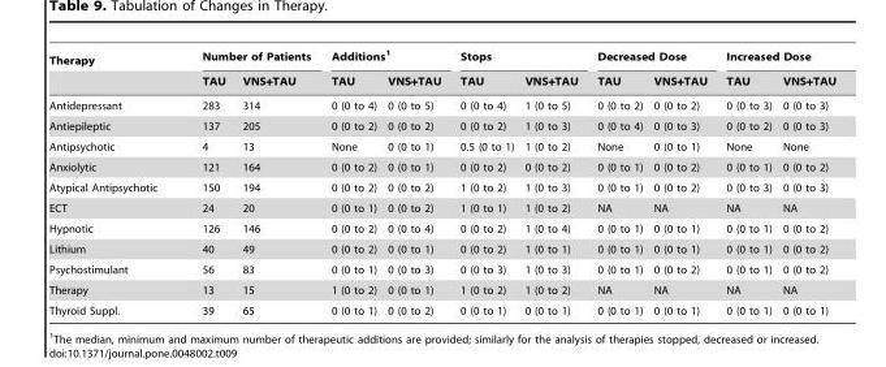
<table><thead><tr><td rowspan="2">Therapy</td><td colspan="2">Number of Patients</td><td colspan="2">Additions<sup>1</sup></td><td colspan="2">Stops</td><td colspan="2">Decreased Dose</td><td colspan="2">Increased Dose</td></tr><tr><td>TAU</td><td>VNS+TAU</td><td>TAU</td><td>VNS+TAU</td><td>TAU</td><td>VNS+TAU</td><td>TAU</td><td>VNS+TAU</td><td>TAU</td><td>VNS+TAU</td></tr></thead><tbody><tr><td>Antidepressant</td><td>283</td><td>314</td><td>0 (0 to 4)</td><td>0 (0 to 5)</td><td>0 (0 to 4)</td><td>1 (0 to 5)</td><td>0 (0 to 2)</td><td>0 (0 to 2)</td><td>0 (0 to 3)</td><td>0 (0 to 3)</td></tr><tr><td>Antiepileptic</td><td>137</td><td>205</td><td>0 (0 to 2)</td><td>0 (0 to 2)</td><td>0 (0 to 2)</td><td>1 (0 to 3)</td><td>0 (0 to 4)</td><td>0 (0 to 3)</td><td>0 (0 to 2)</td><td>0 (0 to 3)</td></tr><tr><td>Antipsychotic</td><td>4</td><td>13</td><td>None</td><td>0 (0 to 1)</td><td>0.5 (0 to 1)</td><td>1 (0 to 2)</td><td>None</td><td>0 (0 to 1)</td><td>None</td><td>None</td></tr><tr><td>Anxiolytic</td><td>121</td><td>164</td><td>0 (0 to 2)</td><td>0 (0 to 1)</td><td>0 (0 to 2)</td><td>0 (0 to 2)</td><td>0 (0 to 1)</td><td>0 (0 to 2)</td><td>0 (0 to 1)</td><td>0 (0 to 2)</td></tr><tr><td>Atypical Antipsychotic</td><td>150</td><td>194</td><td>0 (0 to 2)</td><td>0 (0 to 2)</td><td>1 (0 to 2)</td><td>1 (0 to 3)</td><td>0 (0 to 1)</td><td>0 (0 to 2)</td><td>0 (0 to 3)</td><td>0 (0 to 3)</td></tr><tr><td>ECT</td><td>24</td><td>20</td><td>0 (0 to 1)</td><td>0 (0 to 2)</td><td>1 (0 to 1)</td><td>1 (0 to 2)</td><td>NA</td><td>NA</td><td>NA</td><td>NA</td></tr><tr><td>Hypnotic</td><td>126</td><td>146</td><td>0 (0 to 2)</td><td>0 (0 to 4)</td><td>0 (0 to 2)</td><td>1 (0 to 4)</td><td>0 (0 to 1)</td><td>0 (0 to 1)</td><td>0 (0 to 1)</td><td>0 (0 to 2)</td></tr><tr><td>Lithium</td><td>40</td><td>49</td><td>0 (0 to 2)</td><td>0 (0 to 1)</td><td>0 (0 to 2)</td><td>1 (0 to 1)</td><td>0 (0 to 1)</td><td>0 (0 to 1)</td><td>0 (0 to 1)</td><td>0 (0 to 2)</td></tr><tr><td>Psychostimulant</td><td>56</td><td>83</td><td>0 (0 to 1)</td><td>0 (0 to 3)</td><td>0 (0 to 3)</td><td>1 (0 to 3)</td><td>0 (0 to 1)</td><td>0 (0 to 2)</td><td>0 (0 to 1)</td><td>0 (0 to 2)</td></tr><tr><td>Therapy</td><td>13</td><td>15</td><td>1 (0 to 2)</td><td>0 (0 to 1)</td><td>1 (0 to 2)</td><td>1 (0 to 2)</td><td>NA</td><td>NA</td><td>NA</td><td>NA</td></tr><tr><td>Thyroid Suppl.</td><td>39</td><td>65</td><td>0 (0 to 1)</td><td>0 (0 to 2)</td><td>0 (0 to 1)</td><td>0 (0 to 1)</td><td>0 (0 to 1)</td><td>0 (0 to 1)</td><td>0 (0 to 1)</td><td>0 (0 to 1)</td></tr></tbody></table>